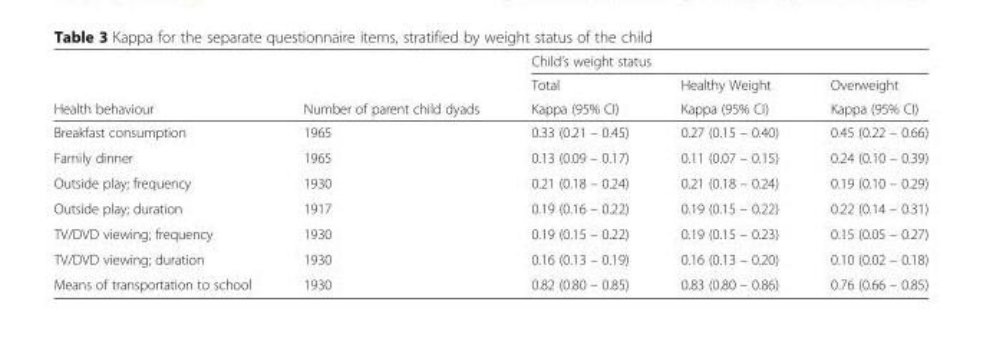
<table><thead><tr><td rowspan="3">Health behaviour</td><td rowspan="3">Number of parent child dyads</td><td colspan="3">Child’s weight status</td></tr><tr><td rowspan="2">Total Kappa (95% CI)</td><td rowspan="2">Healthy Weight Kappa (95% CI)</td><td rowspan="2">Overweight Kappa (95% CI)</td></tr><tr></tr></thead><tbody><tr><td>Breakfast consumption</td><td>1965</td><td>0.33 (0.21 – 0.45)</td><td>0.27 (0.15 – 0.40)</td><td>0.45 (0.22 – 0.66)</td></tr><tr><td>Family dinner</td><td>1965</td><td>0.13 (0.09 – 0.17)</td><td>0.11 (0.07 – 0.15)</td><td>0.24 (0.10 – 0.39)</td></tr><tr><td>Outside play; frequency</td><td>1930</td><td>0.21 (0.18 – 0.24)</td><td>0.21 (0.18 – 0.24)</td><td>0.19 (0.10 – 0.29)</td></tr><tr><td>Outside play; duration</td><td>1917</td><td>0.19 (0.16 – 0.22)</td><td>0.19 (0.15 – 0.22)</td><td>0.22 (0.14 – 0.31)</td></tr><tr><td>TV/DVD viewing; frequency</td><td>1930</td><td>0.19 (0.15 – 0.22)</td><td>0.19 (0.15 – 0.23)</td><td>0.15 (0.05 – 0.27)</td></tr><tr><td>TV/DVD viewing; duration</td><td>1930</td><td>0.16 (0.13 – 0.19)</td><td>0.16 (0.13 – 0.20)</td><td>0.10 (0.02 – 0.18)</td></tr><tr><td>Means of transportation to school</td><td>1930</td><td>0.82 (0.80 – 0.85)</td><td>0.83 (0.80 – 0.86)</td><td>0.76 (0.66 – 0.85)</td></tr></tbody></table>